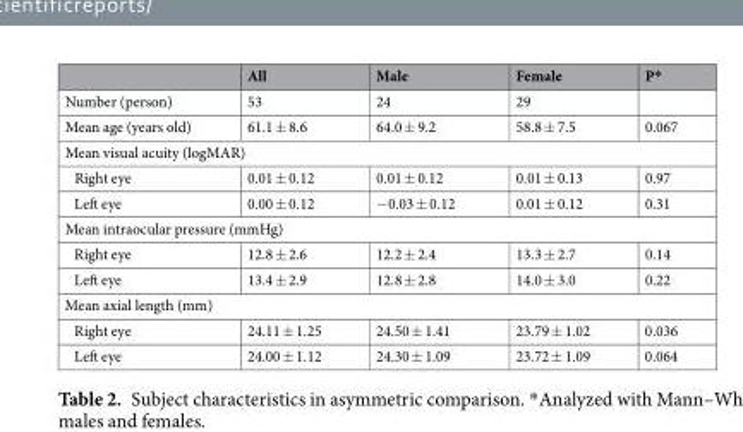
<table><thead><tr><td></td><td>All</td><td>Male</td><td>Female</td><td>P*</td></tr></thead><tbody><tr><td>Number (person)</td><td>53</td><td>24</td><td>29</td><td></td></tr><tr><td>Mean age (years old)</td><td>61.1 ± 8.6</td><td>64.0 ± 9.2</td><td>58.8 ± 7.5</td><td>0.067</td></tr><tr><td colspan="5">Mean visual acuity (logMAR)</td></tr><tr><td>Right eye</td><td>0.01 ± 0.12</td><td>0.01 ± 0.12</td><td>0.01 ± 0.13</td><td>0.97</td></tr><tr><td>Left eye</td><td>0.00 ± 0.12</td><td>−0.03 ± 0.12</td><td>0.01 ± 0.12</td><td>0.31</td></tr><tr><td colspan="5">Mean intraocular pressure (mmHg)</td></tr><tr><td>Right eye</td><td>12.8 ± 2.6</td><td>12.2 ± 2.4</td><td>13.3 ± 2.7</td><td>0.14</td></tr><tr><td>Left eye</td><td>13.4 ± 2.9</td><td>12.8 ± 2.8</td><td>14.0 ± 3.0</td><td>0.22</td></tr><tr><td colspan="5">Mean axial length (mm)</td></tr><tr><td>Right eye</td><td>24.11 ± 1.25</td><td>24.50 ± 1.41</td><td>23.79 ± 1.02</td><td>0.036</td></tr><tr><td>Left eye</td><td>24.00 ± 1.12</td><td>24.30 ± 1.09</td><td>23.72 ± 1.09</td><td>0.064</td></tr></tbody></table>